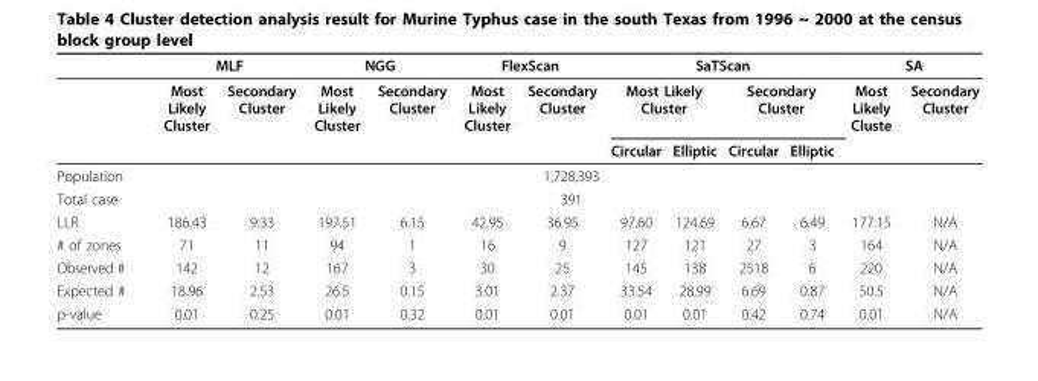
<table><thead><tr><td rowspan="3"></td><td colspan="2">MLF</td><td colspan="2">NGG</td><td colspan="2">FlexScan</td><td colspan="4">SaTScan</td><td colspan="2">SA</td></tr><tr><td rowspan="2">Most Likely Cluster</td><td rowspan="2">Secondary Cluster</td><td rowspan="2">Most Likely Cluster</td><td rowspan="2">Secondary Cluster</td><td rowspan="2">Most Likely Cluster</td><td rowspan="2">Secondary Cluster</td><td colspan="2">Most Likely Cluster</td><td colspan="2">Secondary Cluster</td><td rowspan="2">Most Likely Cluste</td><td rowspan="2">Secondary Cluster</td></tr><tr><td>Circular</td><td>Elliptic</td><td>Circular</td><td>Elliptic</td></tr></thead><tbody><tr><td>Population</td><td colspan="12">1,728,393</td></tr><tr><td>Total case</td><td colspan="12">391</td></tr><tr><td>LLR</td><td>186.43</td><td>9.33</td><td>197.51</td><td>6.15</td><td>42.95</td><td>36.95</td><td>97.60</td><td>124.69</td><td>6.67</td><td>6.49</td><td>177.15</td><td>N/A</td></tr><tr><td># of zones</td><td>71</td><td>11</td><td>94</td><td>1</td><td>16</td><td>9</td><td>127</td><td>121</td><td>27</td><td>3</td><td>164</td><td>N/A</td></tr><tr><td>Observed #</td><td>142</td><td>12</td><td>167</td><td>3</td><td>30</td><td>25</td><td>145</td><td>138</td><td>2518</td><td>6</td><td>220</td><td>N/A</td></tr><tr><td>Expected #</td><td>18.96</td><td>2.53</td><td>26.5</td><td>0.15</td><td>3.01</td><td>2.37</td><td>33.54</td><td>28.99</td><td>6.69</td><td>0.87</td><td>50.5</td><td>N/A</td></tr><tr><td>p-value</td><td>0.01</td><td>0.25</td><td>0.01</td><td>0.32</td><td>0.01</td><td>0.01</td><td>0.01</td><td>0.01</td><td>0.42</td><td>0.74</td><td>0.01</td><td>N/A</td></tr></tbody></table>